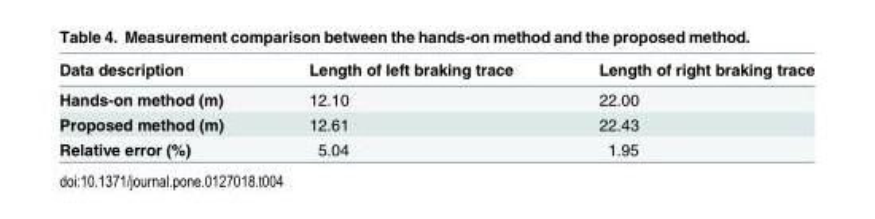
<table><thead><tr><td>Data description</td><td>Length of left braking trace</td><td>Length of right braking trace</td></tr></thead><tbody><tr><td>Hands-on method (m)</td><td>12.10</td><td>22.00</td></tr><tr><td>Proposed method (m)</td><td>12.61</td><td>22.43</td></tr><tr><td>Relative error (%)</td><td>5.04</td><td>1.95</td></tr></tbody></table>